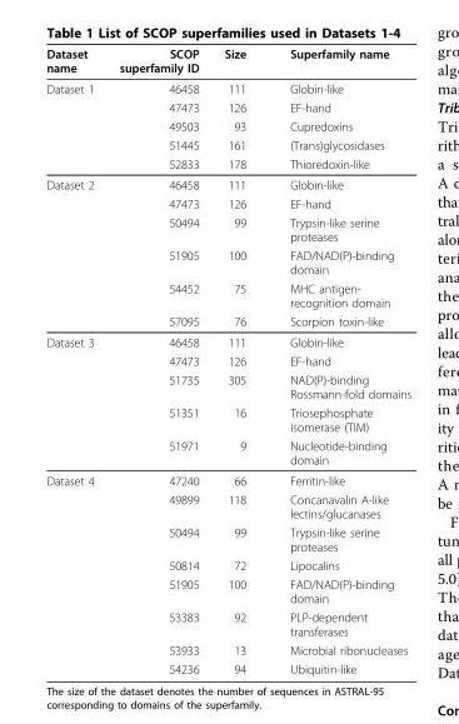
<table><thead><tr><td>Dataset name</td><td>SCOP superfamily ID</td><td>Size</td><td>Superfamily name</td></tr></thead><tbody><tr><td rowspan="5">Dataset 1</td><td>46458</td><td>111</td><td>Globin-like</td></tr><tr><td>47473</td><td>126</td><td>EF-hand</td></tr><tr><td>49503</td><td>93</td><td>Cupredoxins</td></tr><tr><td>51445</td><td>161</td><td>(Trans)glycosidases</td></tr><tr><td>52833</td><td>178</td><td>Thioredoxin-like</td></tr><tr><td rowspan="6">Dataset 2</td><td>46458</td><td>111</td><td>Globin-like</td></tr><tr><td>47473</td><td>126</td><td>EF-hand</td></tr><tr><td>50494</td><td>99</td><td>Trypsin-like serine proteases</td></tr><tr><td>51905</td><td>100</td><td>FAD/NAD(P)-binding domain</td></tr><tr><td>54452</td><td>75</td><td>MHC antigen- recognition domain</td></tr><tr><td>57095</td><td>76</td><td>Scorpion toxin-like</td></tr><tr><td rowspan="5">Dataset 3</td><td>46458</td><td>111</td><td>Globin-like</td></tr><tr><td>47473</td><td>126</td><td>EF-hand</td></tr><tr><td>51735</td><td>305</td><td>NAD(P)-binding Rossmann-fold domains</td></tr><tr><td>51351</td><td>16</td><td>Triosephosphate isomerase (TIM)</td></tr><tr><td>51971</td><td>9</td><td>Nucleotide-binding domain</td></tr><tr><td rowspan="8">Dataset 4</td><td>47240</td><td>66</td><td>Ferritin-like</td></tr><tr><td>49899</td><td>118</td><td>Concanavalin A-like lectins/glucanases</td></tr><tr><td>50494</td><td>99</td><td>Trypsin-like serine proteases</td></tr><tr><td>50814</td><td>72</td><td>Lipocalins</td></tr><tr><td>51905</td><td>100</td><td>FAD/NAD(P)-binding domain</td></tr><tr><td>53383</td><td>92</td><td>PLP-dependent transferases</td></tr><tr><td>53933</td><td>13</td><td>Microbial ribonucleases</td></tr><tr><td>54236</td><td>94</td><td>Ubiquitin-like</td></tr></tbody></table>